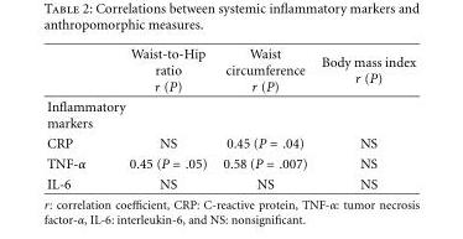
<table><thead><tr><td></td><td>Waist-to-Hip ratio r (P)</td><td>Waist circumference r (P)</td><td>Body mass index r (P)</td></tr></thead><tbody><tr><td colspan="4">Inflammatory markers</td></tr><tr><td>CRP</td><td>NS</td><td>0.45 (P = .04)</td><td>NS</td></tr><tr><td>TNF-α</td><td>0.45 (P = .05)</td><td>0.58 (P = .007)</td><td>NS</td></tr><tr><td>IL-6</td><td>NS</td><td>NS</td><td>NS</td></tr></tbody></table>